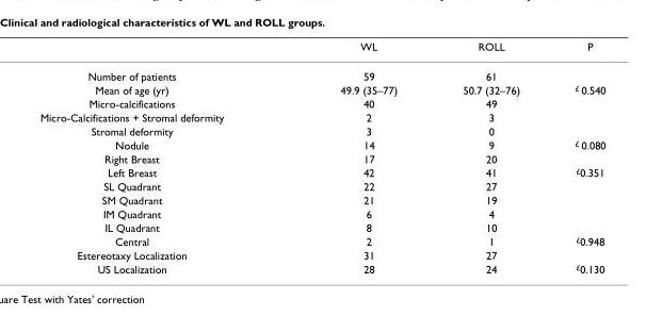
<table><thead><tr><td></td><td>WL</td><td>ROLL</td><td>P</td></tr></thead><tbody><tr><td>Number of patients</td><td>59</td><td>61</td><td></td></tr><tr><td>Mean of age (yr)</td><td>49.9 (35–77)</td><td>50.7 (32–76)</td><td><sup>£</sup> 0.540</td></tr><tr><td>Micro-calcifications</td><td>40</td><td>49</td><td></td></tr><tr><td>Micro-Calcifications + Stromal deformity</td><td>2</td><td>3</td><td></td></tr><tr><td>Stromal deformity</td><td>3</td><td>0</td><td></td></tr><tr><td>Nodule</td><td>14</td><td>9</td><td><sup>£</sup> 0.080</td></tr><tr><td>Right Breast</td><td>17</td><td>20</td><td></td></tr><tr><td>Left Breast</td><td>42</td><td>41</td><td><sup>£</sup>0.351</td></tr><tr><td>SL Quadrant</td><td>22</td><td>27</td><td></td></tr><tr><td>SM Quadrant</td><td>21</td><td>19</td><td></td></tr><tr><td>IM Quadrant</td><td>6</td><td>4</td><td></td></tr><tr><td>IL Quadrant</td><td>8</td><td>10</td><td></td></tr><tr><td>Central</td><td>2</td><td>1</td><td><sup>£</sup>0.948</td></tr><tr><td>Estereotaxy Localization</td><td>31</td><td>27</td><td></td></tr><tr><td>US Localization</td><td>28</td><td>24</td><td><sup>£</sup>0.130</td></tr></tbody></table>